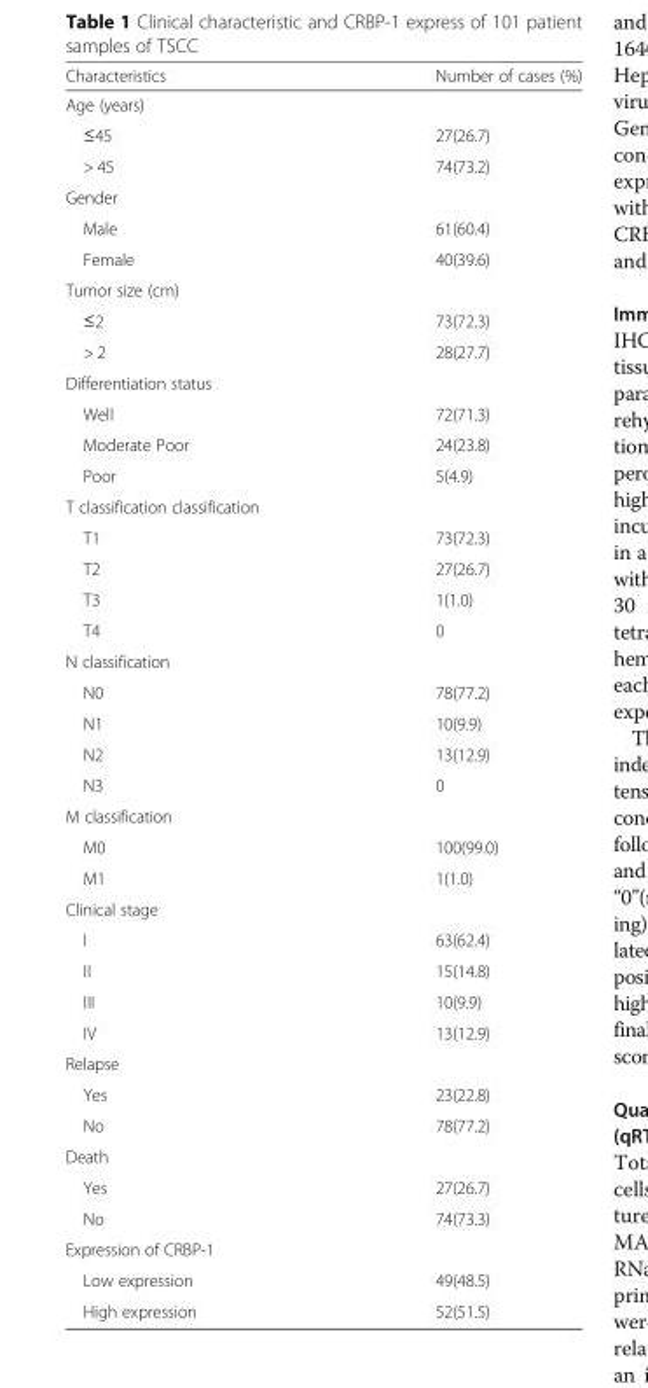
<table><thead><tr><td>Characteristics</td><td>Number of cases (%)</td></tr></thead><tbody><tr><td colspan="2">Age (years)</td></tr><tr><td>≤45</td><td>27(26.7)</td></tr><tr><td>&gt; 45</td><td>74(73.2)</td></tr><tr><td colspan="2">Gender</td></tr><tr><td>Male</td><td>61(60.4)</td></tr><tr><td>Female</td><td>40(39.6)</td></tr><tr><td colspan="2">Tumor size (cm)</td></tr><tr><td>≤2</td><td>73(72.3)</td></tr><tr><td>&gt; 2</td><td>28(27.7)</td></tr><tr><td colspan="2">Differentiation status</td></tr><tr><td>Well</td><td>72(71.3)</td></tr><tr><td>Moderate Poor</td><td>24(23.8)</td></tr><tr><td>Poor</td><td>5(4.9)</td></tr><tr><td colspan="2">T classification classification</td></tr><tr><td>T1</td><td>73(72.3)</td></tr><tr><td>T2</td><td>27(26.7)</td></tr><tr><td>T3</td><td>1(1.0)</td></tr><tr><td>T4</td><td>0</td></tr><tr><td colspan="2">N classification</td></tr><tr><td>N0</td><td>78(77.2)</td></tr><tr><td>N1</td><td>10(9.9)</td></tr><tr><td>N2</td><td>13(12.9)</td></tr><tr><td>N3</td><td>0</td></tr><tr><td colspan="2">M classification</td></tr><tr><td>M0</td><td>100(99.0)</td></tr><tr><td>M1</td><td>1(1.0)</td></tr><tr><td colspan="2">Clinical stage</td></tr><tr><td>I</td><td>63(62.4)</td></tr><tr><td>II</td><td>15(14.8)</td></tr><tr><td>III</td><td>10(9.9)</td></tr><tr><td>IV</td><td>13(12.9)</td></tr><tr><td colspan="2">Relapse</td></tr><tr><td>Yes</td><td>23(22.8)</td></tr><tr><td>No</td><td>78(77.2)</td></tr><tr><td colspan="2">Death</td></tr><tr><td>Yes</td><td>27(26.7)</td></tr><tr><td>No</td><td>74(73.3)</td></tr><tr><td colspan="2">Expression of CRBP-1</td></tr><tr><td>Low expression</td><td>49(48.5)</td></tr><tr><td>High expression</td><td>52(51.5)</td></tr></tbody></table>